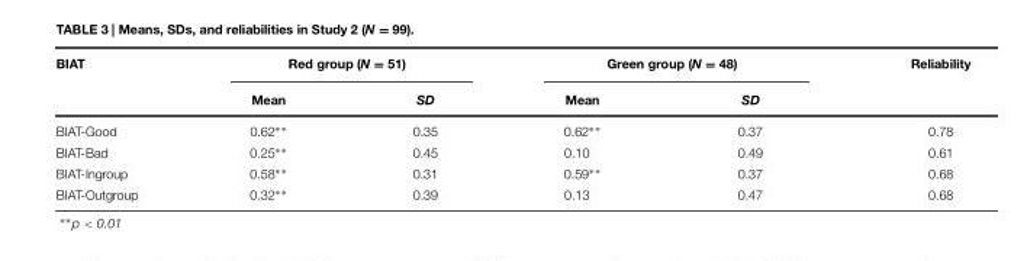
<table><thead><tr><td rowspan="2">BIAT</td><td colspan="2">Red group (N = 51)</td><td colspan="2">Green group (N = 48)</td><td rowspan="2">Reliability</td></tr><tr><td>Mean</td><td>SD</td><td>Mean</td><td>SD</td></tr></thead><tbody><tr><td>BIAT-Good</td><td>0.62∗∗</td><td>0.35</td><td>0.62∗∗</td><td>0.37</td><td>0.78</td></tr><tr><td>BIAT-Bad</td><td>0.25∗∗</td><td>0.45</td><td>0.10</td><td>0.49</td><td>0.61</td></tr><tr><td>BIAT-Ingroup</td><td>0.58∗∗</td><td>0.31</td><td>0.59∗∗</td><td>0.37</td><td>0.68</td></tr><tr><td>BIAT-Outgroup</td><td>0.32∗∗</td><td>0.39</td><td>0.13</td><td>0.47</td><td>0.68</td></tr></tbody></table>